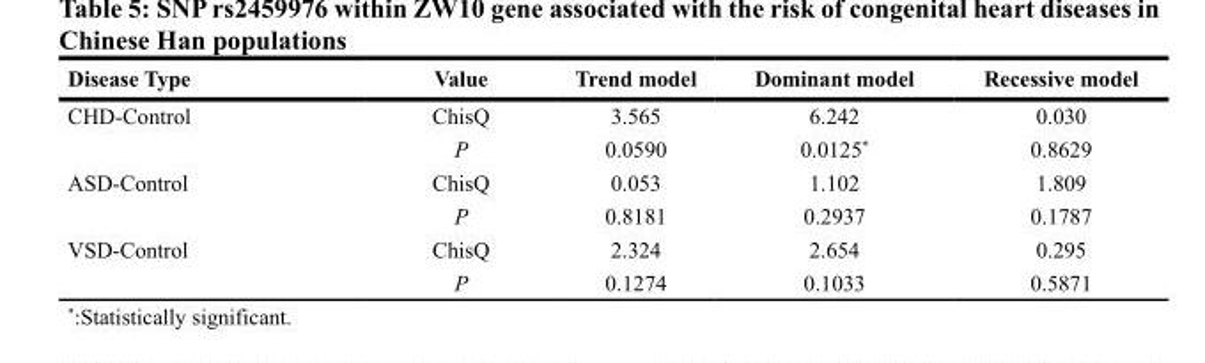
<table><thead><tr><td>Disease Type</td><td>Value</td><td>Trend model</td><td>Dominant model</td><td>Recessive model</td></tr></thead><tbody><tr><td rowspan="2">CHD-Control</td><td>ChisQ</td><td>3.565</td><td>6.242</td><td>0.030</td></tr><tr><td>P</td><td>0.0590</td><td>0.0125*</td><td>0.8629</td></tr><tr><td rowspan="2">ASD-Control</td><td>ChisQ</td><td>0.053</td><td>1.102</td><td>1.809</td></tr><tr><td>P</td><td>0.8181</td><td>0.2937</td><td>0.1787</td></tr><tr><td rowspan="2">VSD-Control</td><td>ChisQ</td><td>2.324</td><td>2.654</td><td>0.295</td></tr><tr><td>P</td><td>0.1274</td><td>0.1033</td><td>0.5871</td></tr></tbody></table>